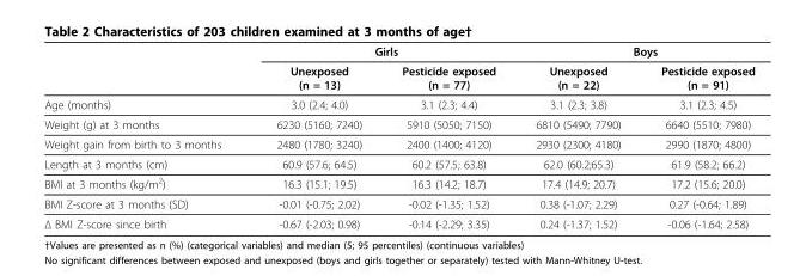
<table><thead><tr><td rowspan="2"></td><td colspan="2">Girls</td><td colspan="2">Boys</td></tr><tr><td>Unexposed (n = 13)</td><td>Pesticide exposed (n = 77)</td><td>Unexposed (n = 22)</td><td>Pesticide exposed (n = 91)</td></tr></thead><tbody><tr><td>Age (months)</td><td>3.0 (2.4; 4.0)</td><td>3.1 (2.3; 4.4)</td><td>3.1 (2.3; 3.8)</td><td>3.1 (2.3; 4.5)</td></tr><tr><td>Weight (g) at 3 months</td><td>6230 (5160; 7240)</td><td>5910 (5050; 7150)</td><td>6810 (5490; 7790)</td><td>6640 (5510; 7980)</td></tr><tr><td>Weight gain from birth to 3 months</td><td>2480 (1780; 3240)</td><td>2400 (1400; 4120)</td><td>2930 (2300; 4180)</td><td>2990 (1870; 4800)</td></tr><tr><td>Length at 3 months (cm)</td><td>60.9 (57.6; 64.5)</td><td>60.2 (57.5; 63.8)</td><td>62.0 (60.2;65.3)</td><td>61.9 (58.2; 66.2)</td></tr><tr><td>BMI at 3 months (kg/m<sup>2</sup>)</td><td>16.3 (15.1; 19.5)</td><td>16.3 (14.2; 18.7)</td><td>17.4 (14.9; 20.7)</td><td>17.2 (15.6; 20.0)</td></tr><tr><td>BMI Z-score at 3 months (SD)</td><td>-0.01 (-0.75; 2.02)</td><td>-0.02 (-1.35; 1.52)</td><td>0.38 (-1.07; 2.29)</td><td>0.27 (-0.64; 1.89)</td></tr><tr><td>Δ BMI Z-score since birth</td><td>-0.67 (-2.03; 0.98)</td><td>-0.14 (-2.29; 3.35)</td><td>0.24 (-1.37; 1.52)</td><td>-0.06 (-1.64; 2.58)</td></tr></tbody></table>